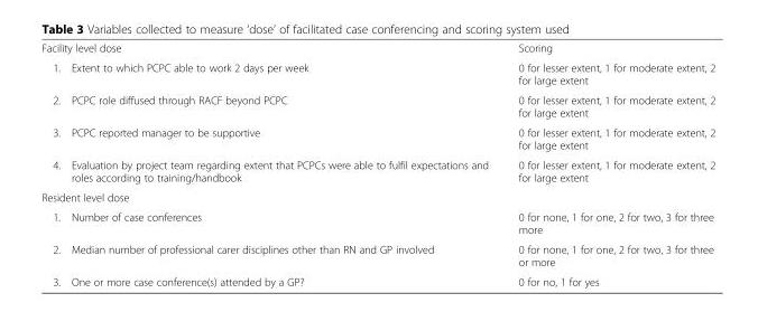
<table><tbody><tr><td>Facility level dose</td><td>Scoring</td></tr><tr><td>1. Extent to which PCPC able to work 2 days per week</td><td>0 for lesser extent, 1 for moderate extent, 2 for large extent</td></tr><tr><td>2. PCPC role diffused through RACF beyond PCPC</td><td>0 for lesser extent, 1 for moderate extent, 2 for large extent</td></tr><tr><td>3. PCPC reported manager to be supportive</td><td>0 for lesser extent, 1 for moderate extent, 2 for large extent</td></tr><tr><td>4. Evaluation by project team regarding extent that PCPCs were able to fulfil expectations and roles according to training/handbook</td><td>0 for lesser extent, 1 for moderate extent, 2 for large extent</td></tr><tr><td colspan="2">Resident level dose</td></tr><tr><td>1. Number of case conferences</td><td>0 for none, 1 for one, 2 for two, 3 for three more</td></tr><tr><td>2. Median number of professional carer disciplines other than RN and GP involved</td><td>0 for none, 1 for one, 2 for two, 3 for three or more</td></tr><tr><td>3. One or more case conference(s) attended by a GP?</td><td>0 for no, 1 for yes</td></tr></tbody></table>